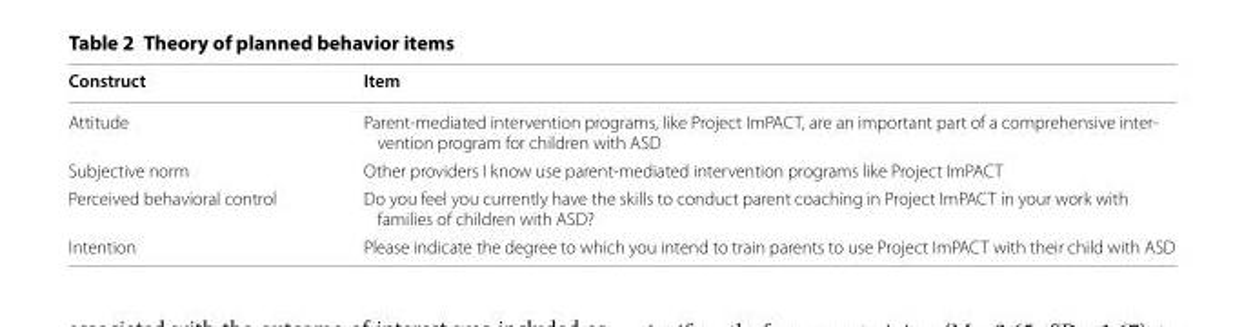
<table><thead><tr><td>Construct</td><td>Item</td></tr></thead><tbody><tr><td>Attitude</td><td>Parent-mediated intervention programs, like Project ImPACT, are an important part of a comprehensive inter- vention program for children with ASD</td></tr><tr><td>Subjective norm</td><td>Other providers I know use parent-mediated intervention programs like Project ImPACT</td></tr><tr><td>Perceived behavioral control</td><td>Do you feel you currently have the skills to conduct parent coaching in Project ImPACT in your work with families of children with ASD?</td></tr><tr><td>Intention</td><td>Please indicate the degree to which you intend to train parents to use Project ImPACT with their child with ASD</td></tr></tbody></table>